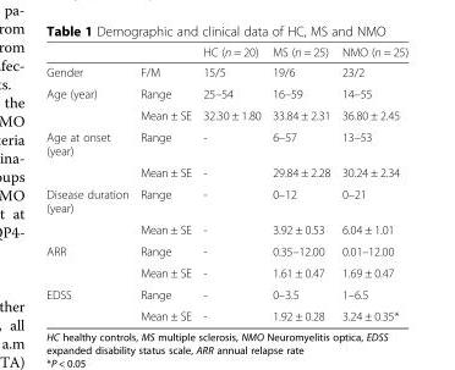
<table><thead><tr><td></td><td></td><td>HC (n = 20)</td><td>MS (n = 25)</td><td>NMO (n = 25)</td></tr></thead><tbody><tr><td>Gender</td><td>F/M</td><td>15/5</td><td>19/6</td><td>23/2</td></tr><tr><td rowspan="2">Age (year)</td><td>Range</td><td>25–54</td><td>16–59</td><td>14–55</td></tr><tr><td>Mean ± SE</td><td>32.30 ± 1.80</td><td>33.84 ± 2.31</td><td>36.80 ± 2.45</td></tr><tr><td rowspan="2">Age at onset (year)</td><td>Range</td><td>-</td><td>6–57</td><td>13–53</td></tr><tr><td>Mean ± SE</td><td>-</td><td>29.84 ± 2.28</td><td>30.24 ± 2.34</td></tr><tr><td rowspan="2">Disease duration (year)</td><td>Range</td><td>-</td><td>0–12</td><td>0–21</td></tr><tr><td>Mean ± SE</td><td>-</td><td>3.92 ± 0.53</td><td>6.04 ± 1.01</td></tr><tr><td rowspan="2">ARR</td><td>Range</td><td>-</td><td>0.35–12.00</td><td>0.01–12.00</td></tr><tr><td>Mean ± SE</td><td>-</td><td>1.61 ± 0.47</td><td>1.69 ± 0.47</td></tr><tr><td rowspan="2">EDSS</td><td>Range</td><td>-</td><td>0–3.5</td><td>1–6.5</td></tr><tr><td>Mean ± SE</td><td>-</td><td>1.92 ± 0.28</td><td>3.24 ± 0.35*</td></tr></tbody></table>